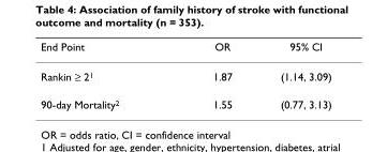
<table><thead><tr><td>End Point</td><td>OR</td><td>95% CI</td></tr></thead><tbody><tr><td>Rankin ≥ 2<sup>1</sup></td><td>1.87</td><td>(1.14, 3.09)</td></tr><tr><td>90-day Mortality<sup>2</sup></td><td>1.55</td><td>(0.77, 3.13)</td></tr></tbody></table>